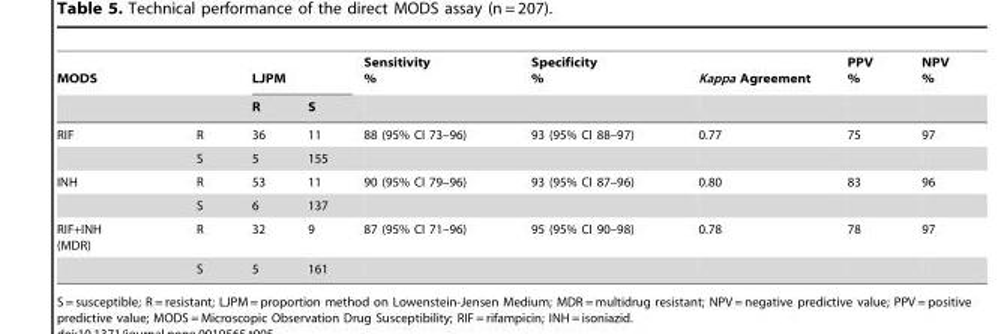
<table><thead><tr><td colspan="2">MODS</td><td colspan="2">LJPM</td><td rowspan="2">Sensitivity %</td><td rowspan="2">Specificity %</td><td rowspan="2">Kappa Agreement</td><td rowspan="2">PPV %</td><td rowspan="2">NPV %</td></tr><tr><td></td><td></td><td>R</td><td>S</td></tr></thead><tbody><tr><td rowspan="2">RIF</td><td>R</td><td>36</td><td>11</td><td>88 (95% CI 73–96)</td><td>93 (95% CI 88–97)</td><td>0.77</td><td>75</td><td>97</td></tr><tr><td>S</td><td>5</td><td>155</td><td></td><td></td><td></td><td></td><td></td></tr><tr><td rowspan="2">INH</td><td>R</td><td>53</td><td>11</td><td>90 (95% CI 79–96)</td><td>93 (95% CI 87–96)</td><td>0.80</td><td>83</td><td>96</td></tr><tr><td>S</td><td>6</td><td>137</td><td></td><td></td><td></td><td></td><td></td></tr><tr><td rowspan="2">RIF+INH (MDR)</td><td>R</td><td>32</td><td>9</td><td>87 (95% CI 71–96)</td><td>95 (95% CI 90–98)</td><td>0.78</td><td>78</td><td>97</td></tr><tr><td>S</td><td>5</td><td>161</td><td></td><td></td><td></td><td></td><td></td></tr></tbody></table>